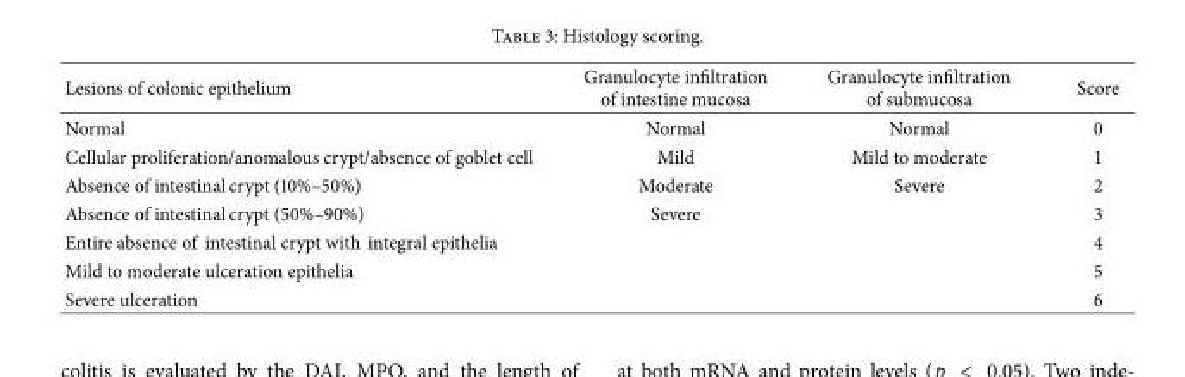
<table><thead><tr><td>Lesions of colonic epithelium</td><td>Granulocyte infiltration of intestine mucosa</td><td>Granulocyte infiltration of submucosa</td><td>Score</td></tr></thead><tbody><tr><td>Normal</td><td>Normal</td><td>Normal</td><td>0</td></tr><tr><td>Cellular proliferation/anomalous crypt/absence of goblet cell</td><td>Mild</td><td>Mild to moderate</td><td>1</td></tr><tr><td>Absence of intestinal crypt (10%–50%)</td><td>Moderate</td><td>Severe</td><td>2</td></tr><tr><td>Absence of intestinal crypt (50%–90%)</td><td>Severe</td><td></td><td>3</td></tr><tr><td>Entire absence of intestinal crypt with integral epithelia</td><td></td><td></td><td>4</td></tr><tr><td>Mild to moderate ulceration epithelia</td><td></td><td></td><td>5</td></tr><tr><td>Severe ulceration</td><td></td><td></td><td>6</td></tr></tbody></table>